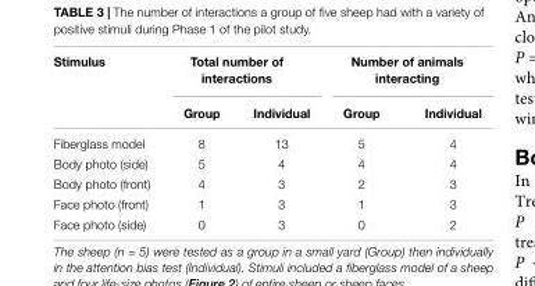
<table><thead><tr><td rowspan="2">Stimulus</td><td colspan="2">Total number of interactions</td><td colspan="2">Number of animals interacting</td></tr><tr><td>Group</td><td>Individual</td><td>Group</td><td>Individual</td></tr></thead><tbody><tr><td>Fiberglass model</td><td>8</td><td>13</td><td>5</td><td>4</td></tr><tr><td>Body photo (side)</td><td>5</td><td>4</td><td>4</td><td>4</td></tr><tr><td>Body photo (front)</td><td>4</td><td>3</td><td>2</td><td>3</td></tr><tr><td>Face photo (front)</td><td>1</td><td>3</td><td>1</td><td>3</td></tr><tr><td>Face photo (side)</td><td>0</td><td>3</td><td>0</td><td>2</td></tr></tbody></table>